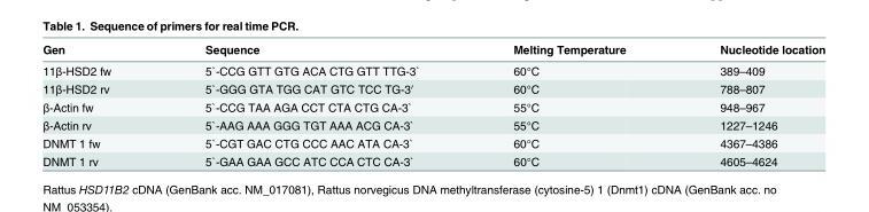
<table><thead><tr><td>Gen</td><td>Sequence</td><td>Melting Temperature</td><td>Nucleotide location</td></tr></thead><tbody><tr><td>11β-HSD2 fw</td><td>5`-CCG GTT GTG ACA CTG GTT TTG-3`</td><td>60°C</td><td>389–409</td></tr><tr><td>11β-HSD2 rv</td><td>5`-GGG GTA TGG CAT GTC TCC TG-3′</td><td>60°C</td><td>788–807</td></tr><tr><td>β-Actin fw</td><td>5`-CCG TAA AGA CCT CTA CTG CA-3`</td><td>55°C</td><td>948–967</td></tr><tr><td>β-Actin rv</td><td>5`-AAG AAA GGG TGT AAA ACG CA-3`</td><td>55°C</td><td>1227–1246</td></tr><tr><td>DNMT 1 fw</td><td>5`-CGT GAC CTG CCC AAC ATA CA-3`</td><td>60°C</td><td>4367–4386</td></tr><tr><td>DNMT 1 rv</td><td>5`-GAA GAA GCC ATC CCA CTC CA-3`</td><td>60°C</td><td>4605–4624</td></tr></tbody></table>